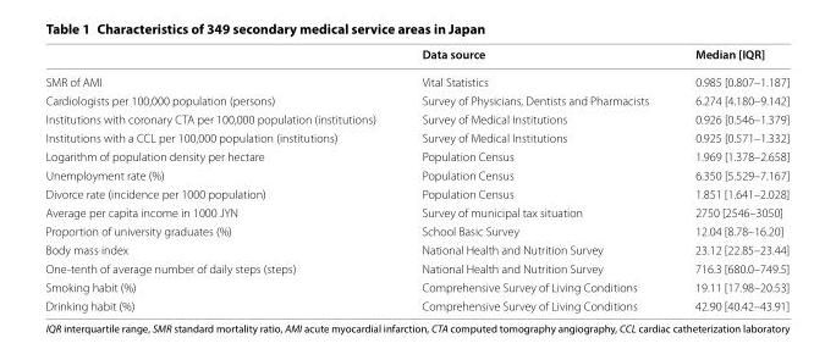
<table><thead><tr><td></td><td>Data source</td><td>Median [IQR]</td></tr></thead><tbody><tr><td>SMR of AMI</td><td>Vital Statistics</td><td>0.985 [0.807–1.187]</td></tr><tr><td>Cardiologists per 100,000 population (persons)</td><td>Survey of Physicians, Dentists and Pharmacists</td><td>6.274 [4.180–9.142]</td></tr><tr><td>Institutions with coronary CTA per 100,000 population (institutions)</td><td>Survey of Medical Institutions</td><td>0.926 [0.546–1.379]</td></tr><tr><td>Institutions with a CCL per 100,000 population (institutions)</td><td>Survey of Medical Institutions</td><td>0.925 [0.571–1.332]</td></tr><tr><td>Logarithm of population density per hectare</td><td>Population Census</td><td>1.969 [1.378–2.658]</td></tr><tr><td>Unemployment rate (%)</td><td>Population Census</td><td>6.350 [5.529–7.167]</td></tr><tr><td>Divorce rate (incidence per 1000 population)</td><td>Population Census</td><td>1.851 [1.641–2.028]</td></tr><tr><td>Average per capita income in 1000 JYN</td><td>Survey of municipal tax situation</td><td>2750 [2546–3050]</td></tr><tr><td>Proportion of university graduates (%)</td><td>School Basic Survey</td><td>12.04 [8.78–16.20]</td></tr><tr><td>Body mass index</td><td>National Health and Nutrition Survey</td><td>23.12 [22.85–23.44]</td></tr><tr><td>One-tenth of average number of daily steps (steps)</td><td>National Health and Nutrition Survey</td><td>716.3 [680.0–749.5]</td></tr><tr><td>Smoking habit (%)</td><td>Comprehensive Survey of Living Conditions</td><td>19.11 [17.98–20.53]</td></tr><tr><td>Drinking habit (%)</td><td>Comprehensive Survey of Living Conditions</td><td>42.90 [40.42–43.91]</td></tr></tbody></table>